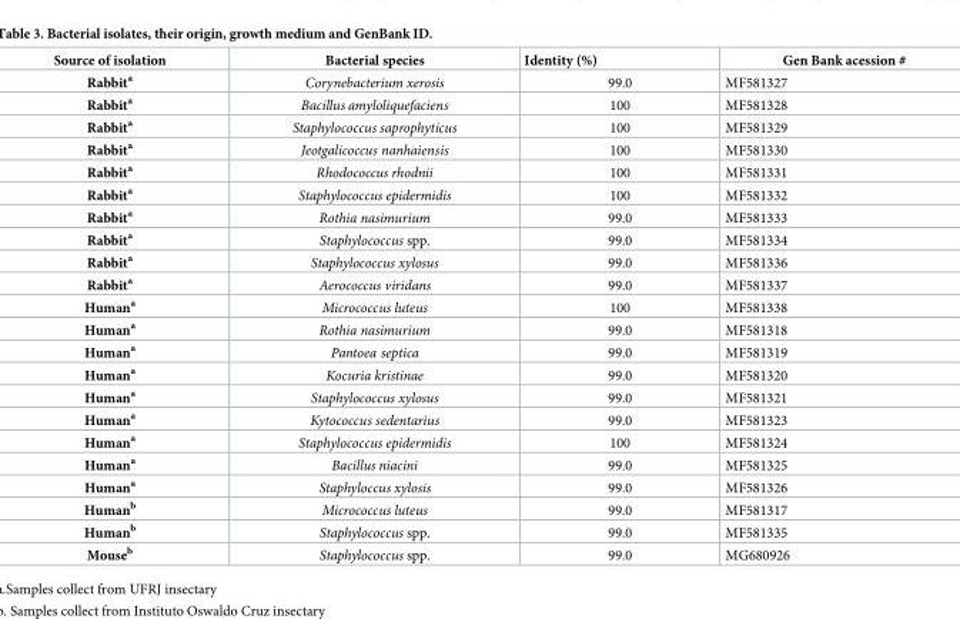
<table><thead><tr><td>Source of isolation</td><td>Bacterial species</td><td>Identity (%)</td><td>Gen Bank acession #</td></tr></thead><tbody><tr><td>Rabbit<sup>a</sup></td><td>Corynebacterium xerosis</td><td>99.0</td><td>MF581327</td></tr><tr><td>Rabbit<sup>a</sup></td><td>Bacillus amyloliquefaciens</td><td>100</td><td>MF581328</td></tr><tr><td>Rabbit<sup>a</sup></td><td>Staphylococcus saprophyticus</td><td>100</td><td>MF581329</td></tr><tr><td>Rabbit<sup>a</sup></td><td>Jeotgalicoccus nanhaiensis</td><td>100</td><td>MF581330</td></tr><tr><td>Rabbit<sup>a</sup></td><td>Rhodococcus rhodnii</td><td>100</td><td>MF581331</td></tr><tr><td>Rabbit<sup>a</sup></td><td>Staphylococcus epidermidis</td><td>100</td><td>MF581332</td></tr><tr><td>Rabbit<sup>a</sup></td><td>Rothia nasimurium</td><td>99.0</td><td>MF581333</td></tr><tr><td>Rabbit<sup>a</sup></td><td>Staphylococcus spp.</td><td>99.0</td><td>MF581334</td></tr><tr><td>Rabbit<sup>a</sup></td><td>Staphylococcus xylosus</td><td>99.0</td><td>MF581336</td></tr><tr><td>Rabbit<sup>a</sup></td><td>Aerococcus viridans</td><td>99.0</td><td>MF581337</td></tr><tr><td>Human<sup>a</sup></td><td>Micrococcus luteus</td><td>100</td><td>MF581338</td></tr><tr><td>Human<sup>a</sup></td><td>Rothia nasimurium</td><td>99.0</td><td>MF581318</td></tr><tr><td>Human<sup>a</sup></td><td>Pantoea septica</td><td>99.0</td><td>MF581319</td></tr><tr><td>Human<sup>a</sup></td><td>Kocuria kristinae</td><td>99.0</td><td>MF581320</td></tr><tr><td>Human<sup>a</sup></td><td>Staphylococcus xylosus</td><td>99.0</td><td>MF581321</td></tr><tr><td>Human<sup>a</sup></td><td>Kytococcus sedentarius</td><td>99.0</td><td>MF581323</td></tr><tr><td>Human<sup>a</sup></td><td>Staphylococcus epidermidis</td><td>100</td><td>MF581324</td></tr><tr><td>Human<sup>a</sup></td><td>Bacillus niacini</td><td>99.0</td><td>MF581325</td></tr><tr><td>Human<sup>a</sup></td><td>Staphyloccus xylosis</td><td>99.0</td><td>MF581326</td></tr><tr><td>Human<sup>b</sup></td><td>Micrococcus luteus</td><td>99.0</td><td>MF581317</td></tr><tr><td>Human<sup>b</sup></td><td>Staphylococcus spp.</td><td>99.0</td><td>MF581335</td></tr><tr><td>Mouse<sup>b</sup></td><td>Staphylococcus spp.</td><td>99.0</td><td>MG680926</td></tr></tbody></table>